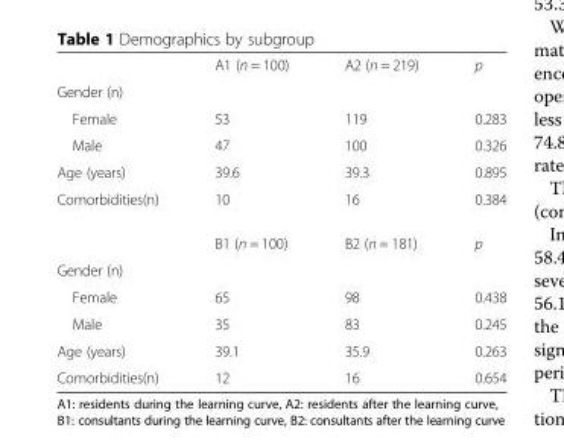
<table><thead><tr><td></td><td>A1 (n = 100)</td><td>A2 (n = 219)</td><td>p</td></tr></thead><tbody><tr><td colspan="4">Gender (n)</td></tr><tr><td>Female</td><td>53</td><td>119</td><td>0.283</td></tr><tr><td>Male</td><td>47</td><td>100</td><td>0.326</td></tr><tr><td>Age (years)</td><td>39.6</td><td>39.3</td><td>0.895</td></tr><tr><td rowspan="2">Comorbidities(n)</td><td>10</td><td>16</td><td>0.384</td></tr><tr><td>B1 (n = 100)</td><td>B2 (n = 181)</td><td>p</td></tr><tr><td colspan="4">Gender (n)</td></tr><tr><td>Female</td><td>65</td><td>98</td><td>0.438</td></tr><tr><td>Male</td><td>35</td><td>83</td><td>0.245</td></tr><tr><td>Age (years)</td><td>39.1</td><td>35.9</td><td>0.263</td></tr><tr><td>Comorbidities(n)</td><td>12</td><td>16</td><td>0.654</td></tr></tbody></table>